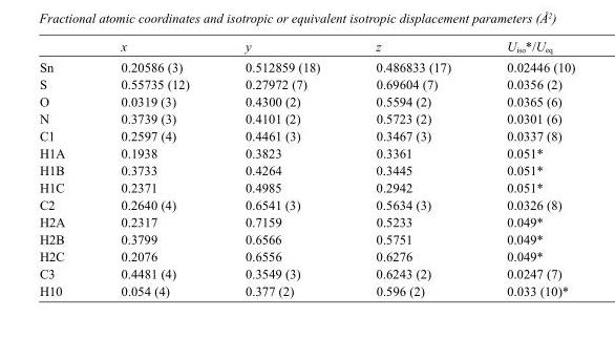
<table><thead><tr><td></td><td>x</td><td>y</td><td>z</td><td>U<sub>iso</sub>*/U<sub>eq</sub></td></tr></thead><tbody><tr><td>Sn</td><td>0.20586 (3)</td><td>0.512859 (18)</td><td>0.486833 (17)</td><td>0.02446 (10)</td></tr><tr><td>S</td><td>0.55735 (12)</td><td>0.27972 (7)</td><td>0.69604 (7)</td><td>0.0356 (2)</td></tr><tr><td>O</td><td>0.0319 (3)</td><td>0.4300 (2)</td><td>0.5594 (2)</td><td>0.0365 (6)</td></tr><tr><td>N</td><td>0.3739 (3)</td><td>0.4101 (2)</td><td>0.5723 (2)</td><td>0.0301 (6)</td></tr><tr><td>C1</td><td>0.2597 (4)</td><td>0.4461 (3)</td><td>0.3467 (3)</td><td>0.0337 (8)</td></tr><tr><td>H1A</td><td>0.1938</td><td>0.3823</td><td>0.3361</td><td>0.051*</td></tr><tr><td>H1B</td><td>0.3733</td><td>0.4264</td><td>0.3445</td><td>0.051*</td></tr><tr><td>H1C</td><td>0.2371</td><td>0.4985</td><td>0.2942</td><td>0.051*</td></tr><tr><td>C2</td><td>0.2640 (4)</td><td>0.6541 (3)</td><td>0.5634 (3)</td><td>0.0326 (8)</td></tr><tr><td>H2A</td><td>0.2317</td><td>0.7159</td><td>0.5233</td><td>0.049*</td></tr><tr><td>H2B</td><td>0.3799</td><td>0.6566</td><td>0.5751</td><td>0.049*</td></tr><tr><td>H2C</td><td>0.2076</td><td>0.6556</td><td>0.6276</td><td>0.049*</td></tr><tr><td>C3</td><td>0.4481 (4)</td><td>0.3549 (3)</td><td>0.6243 (2)</td><td>0.0247 (7)</td></tr><tr><td>H10</td><td>0.054 (4)</td><td>0.377 (2)</td><td>0.596 (2)</td><td>0.033 (10)*</td></tr></tbody></table>